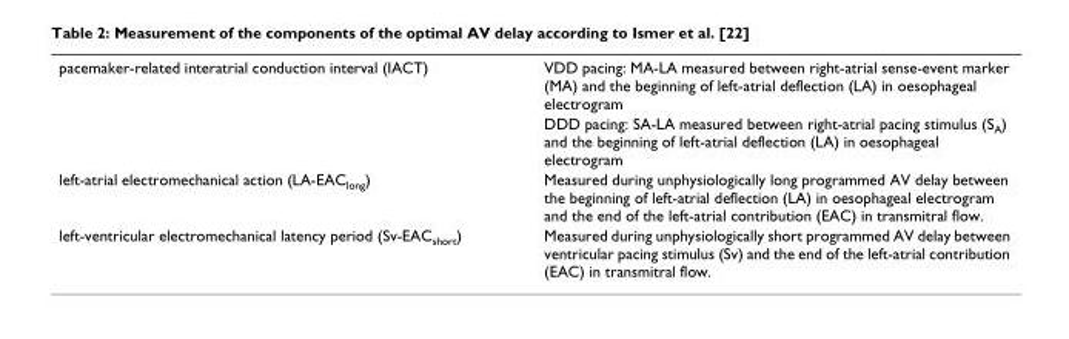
<table><tbody><tr><td rowspan="2">pacemaker-related interatrial conduction interval (IACT)</td><td>VDD pacing: MA-LA measured between right-atrial sense-event marker (MA) and the beginning of left-atrial deflection (LA) in oesophageal electrogram</td></tr><tr><td>DDD pacing: SA-LA measured between right-atrial pacing stimulus (S<sub>A</sub>) and the beginning of left-atrial deflection (LA) in oesophageal electrogram</td></tr><tr><td>left-atrial electromechanical action (LA-EAC<sub>long</sub>)</td><td>Measured during unphysiologically long programmed AV delay between the beginning of left-atrial deflection (LA) in oesophageal electrogram and the end of the left-atrial contribution (EAC) in transmitral flow.</td></tr><tr><td>left-ventricular electromechanical latency period (Sv-EAC<sub>short</sub>)</td><td>Measured during unphysiologically short programmed AV delay between ventricular pacing stimulus (Sv) and the end of the left-atrial contribution (EAC) in transmitral flow.</td></tr></tbody></table>